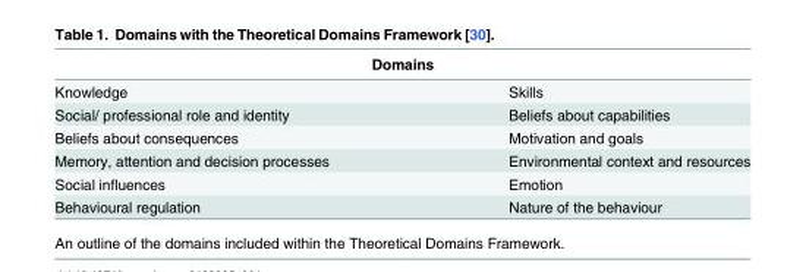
<table><thead><tr><td colspan="2">Domains</td></tr><tr><td>Knowledge</td><td>Skills</td></tr></thead><tbody><tr><td>Social/ professional role and identity</td><td>Beliefs about capabilities</td></tr><tr><td>Beliefs about consequences</td><td>Motivation and goals</td></tr><tr><td>Memory, attention and decision processes</td><td>Environmental context and resources</td></tr><tr><td>Social influences</td><td>Emotion</td></tr><tr><td>Behavioural regulation</td><td>Nature of the behaviour</td></tr></tbody></table>